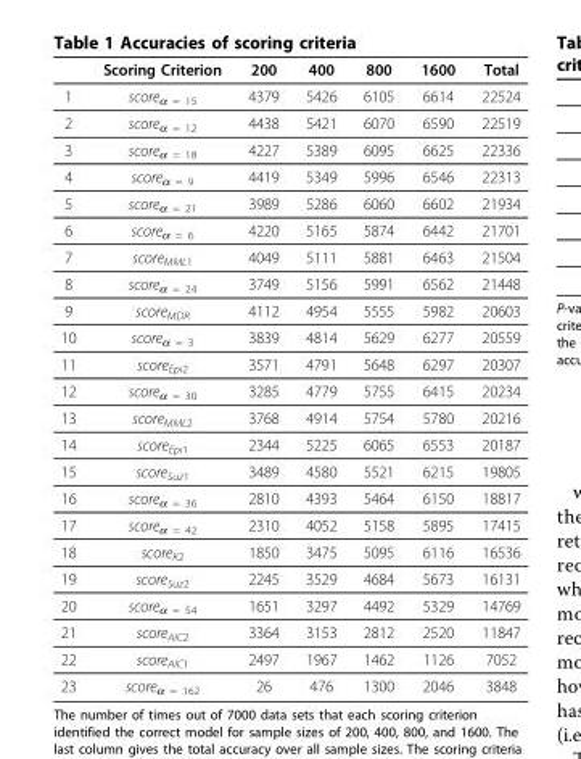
<table><thead><tr><td></td><td>Scoring Criterion</td><td>200</td><td>400</td><td>800</td><td>1600</td><td>Total</td></tr></thead><tbody><tr><td>1</td><td>score<sub>α = 15</sub></td><td>4379</td><td>5426</td><td>6105</td><td>6614</td><td>22524</td></tr><tr><td>2</td><td>score<sub>α = 12</sub></td><td>4438</td><td>5421</td><td>6070</td><td>6590</td><td>22519</td></tr><tr><td>3</td><td>score<sub>α = 18</sub></td><td>4227</td><td>5389</td><td>6095</td><td>6625</td><td>22336</td></tr><tr><td>4</td><td>score<sub>α = 9</sub></td><td>4419</td><td>5349</td><td>5996</td><td>6546</td><td>22313</td></tr><tr><td>5</td><td>score<sub>α = 21</sub></td><td>3989</td><td>5286</td><td>6060</td><td>6602</td><td>21934</td></tr><tr><td>6</td><td>score<sub>α = 6</sub></td><td>4220</td><td>5165</td><td>5874</td><td>6442</td><td>21701</td></tr><tr><td>7</td><td>score<sub>MML1</sub></td><td>4049</td><td>5111</td><td>5881</td><td>6463</td><td>21504</td></tr><tr><td>8</td><td>score<sub>α = 24</sub></td><td>3749</td><td>5156</td><td>5991</td><td>6562</td><td>21448</td></tr><tr><td>9</td><td>score<sub>MDR</sub></td><td>4112</td><td>4954</td><td>5555</td><td>5982</td><td>20603</td></tr><tr><td>10</td><td>score<sub>α = 3</sub></td><td>3839</td><td>4814</td><td>5629</td><td>6277</td><td>20559</td></tr><tr><td>11</td><td>score<sub>Epi2</sub></td><td>3571</td><td>4791</td><td>5648</td><td>6297</td><td>20307</td></tr><tr><td>12</td><td>score<sub>α = 30</sub></td><td>3285</td><td>4779</td><td>5755</td><td>6415</td><td>20234</td></tr><tr><td>13</td><td>score<sub>MML2</sub></td><td>3768</td><td>4914</td><td>5754</td><td>5780</td><td>20216</td></tr><tr><td>14</td><td>score<sub>Epi1</sub></td><td>2344</td><td>5225</td><td>6065</td><td>6553</td><td>20187</td></tr><tr><td>15</td><td>score<sub>Suz1</sub></td><td>3489</td><td>4580</td><td>5521</td><td>6215</td><td>19805</td></tr><tr><td>16</td><td>score<sub>α = 36</sub></td><td>2810</td><td>4393</td><td>5464</td><td>6150</td><td>18817</td></tr><tr><td>17</td><td>score<sub>α = 42</sub></td><td>2310</td><td>4052</td><td>5158</td><td>5895</td><td>17415</td></tr><tr><td>18</td><td>score<sub>K2</sub></td><td>1850</td><td>3475</td><td>5095</td><td>6116</td><td>16536</td></tr><tr><td>19</td><td>score<sub>Suz2</sub></td><td>2245</td><td>3529</td><td>4684</td><td>5673</td><td>16131</td></tr><tr><td>20</td><td>score<sub>α = 54</sub></td><td>1651</td><td>3297</td><td>4492</td><td>5329</td><td>14769</td></tr><tr><td>21</td><td>score<sub>AIC2</sub></td><td>3364</td><td>3153</td><td>2812</td><td>2520</td><td>11847</td></tr><tr><td>22</td><td>score<sub>AIC1</sub></td><td>2497</td><td>1967</td><td>1462</td><td>1126</td><td>7052</td></tr><tr><td>23</td><td>score<sub>α = 162</sub></td><td>26</td><td>476</td><td>1300</td><td>2046</td><td>3848</td></tr></tbody></table>